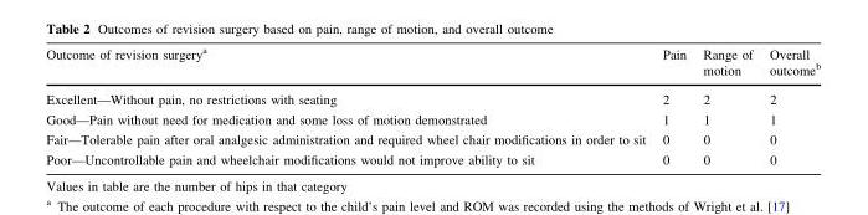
<table><thead><tr><td>Outcome of revision surgery<sup>a</sup></td><td>Pain</td><td>Range of motion</td><td>Overall outcome<sup>b</sup></td></tr></thead><tbody><tr><td>Excellent—Without pain, no restrictions with seating</td><td>2</td><td>2</td><td>2</td></tr><tr><td>Good—Pain without need for medication and some loss of motion demonstrated</td><td>1</td><td>1</td><td>1</td></tr><tr><td>Fair—Tolerable pain after oral analgesic administration and required wheel chair modifications in order to sit</td><td>0</td><td>0</td><td>0</td></tr><tr><td>Poor—Uncontrollable pain and wheelchair modifications would not improve ability to sit</td><td>0</td><td>0</td><td>0</td></tr></tbody></table>